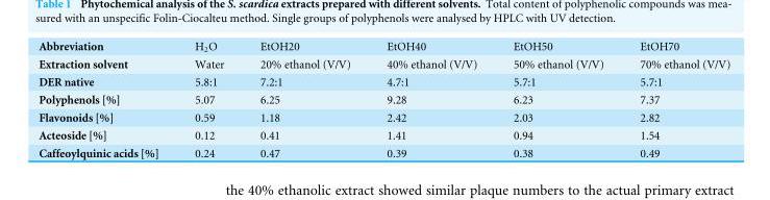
<table><tbody><tr><td>Abbreviation</td><td>H<sub>2</sub>O</td><td>EtOH20</td><td>EtOH40</td><td>EtOH50</td><td>EtOH70</td></tr><tr><td>Extraction solvent</td><td>Water</td><td>20% ethanol (V/V)</td><td>40% ethanol (V/V)</td><td>50% ethanol (V/V)</td><td>70% ethanol (V/V)</td></tr><tr><td>DER native</td><td>5.8:1</td><td>7.2:1</td><td>4.7:1</td><td>5.7:1</td><td>5.7:1</td></tr><tr><td>Polyphenols [%]</td><td>5.07</td><td>6.25</td><td>9.28</td><td>6.23</td><td>7.37</td></tr><tr><td>Flavonoids [%]</td><td>0.59</td><td>1.18</td><td>2.42</td><td>2.03</td><td>2.82</td></tr><tr><td>Acteoside [%]</td><td>0.12</td><td>0.41</td><td>1.41</td><td>0.94</td><td>1.54</td></tr><tr><td>Caffeoylquinic acids [%]</td><td>0.24</td><td>0.47</td><td>0.39</td><td>0.38</td><td>0.49</td></tr></tbody></table>